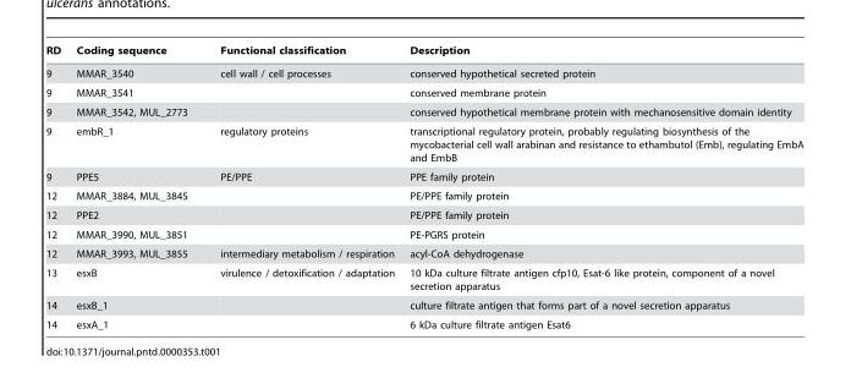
<table><thead><tr><td>RD</td><td>Coding sequence</td><td>Functional classification</td><td>Description</td></tr></thead><tbody><tr><td>9</td><td>MMAR_3540</td><td>cell wall / cell processes</td><td>conserved hypothetical secreted protein</td></tr><tr><td>9</td><td>MMAR_3541</td><td></td><td>conserved membrane protein</td></tr><tr><td>9</td><td>MMAR_3542, MUL_2773</td><td></td><td>conserved hypothetical membrane protein with mechanosensitive domain identity</td></tr><tr><td>9</td><td>embR_1</td><td>regulatory proteins</td><td>transcriptional regulatory protein, probably regulating biosynthesis of the mycobacterial cell wall arabinan and resistance to ethambutol (Emb), regulating EmbA and EmbB</td></tr><tr><td>9</td><td>PPE5</td><td>PE/PPE</td><td>PPE family protein</td></tr><tr><td>12</td><td>MMAR_3884, MUL_3845</td><td></td><td>PE/PPE family protein</td></tr><tr><td>12</td><td>PPE2</td><td></td><td>PE/PPE family protein</td></tr><tr><td>12</td><td>MMAR_3990, MUL_3851</td><td></td><td>PE-PGRS protein</td></tr><tr><td>12</td><td>MMAR_3993, MUL_3855</td><td>intermediary metabolism / respiration</td><td>acyl-CoA dehydrogenase</td></tr><tr><td>13</td><td>esxB</td><td>virulence / detoxification / adaptation</td><td>10 kDa culture filtrate antigen cfp10, Esat-6 like protein, component of a novel secretion apparatus</td></tr><tr><td>14</td><td>esxB_1</td><td></td><td>culture filtrate antigen that forms part of a novel secretion apparatus</td></tr><tr><td>14</td><td>esxA_1</td><td></td><td>6 kDa culture filtrate antigen Esat6</td></tr></tbody></table>